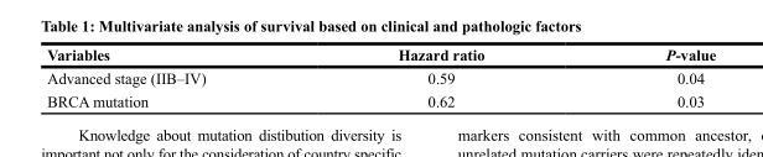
<table><thead><tr><td>Variables</td><td>Hazard ratio</td><td>P-value</td></tr></thead><tbody><tr><td>Advanced stage (IIB–IV)</td><td>0.59</td><td>0.04</td></tr><tr><td>BRCA mutation</td><td>0.62</td><td>0.03</td></tr></tbody></table>